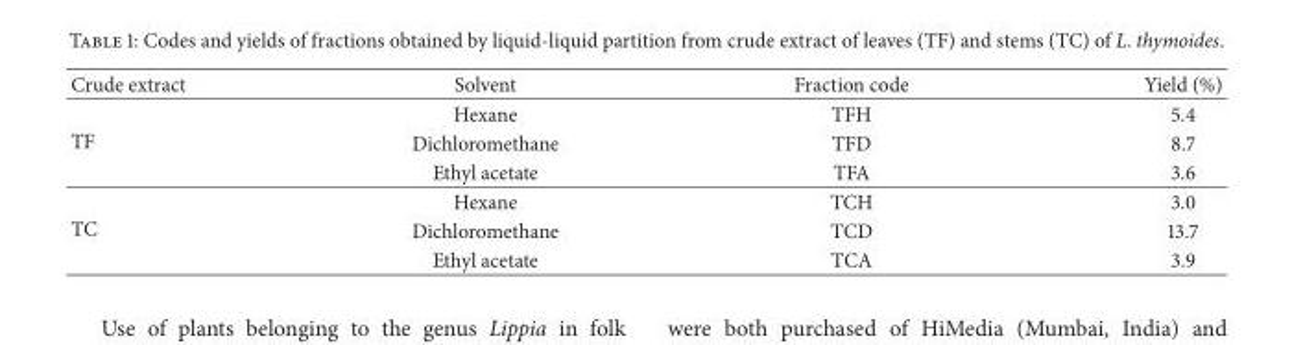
<table><thead><tr><td>Crude extract</td><td>Solvent</td><td>Fraction code</td><td>Yield (%)</td></tr></thead><tbody><tr><td rowspan="3">TF</td><td>Hexane</td><td>TFH</td><td>5.4</td></tr><tr><td>Dichloromethane</td><td>TFD</td><td>8.7</td></tr><tr><td>Ethyl acetate</td><td>TFA</td><td>3.6</td></tr><tr><td rowspan="3">TC</td><td>Hexane</td><td>TCH</td><td>3.0</td></tr><tr><td>Dichloromethane</td><td>TCD</td><td>13.7</td></tr><tr><td>Ethyl acetate</td><td>TCA</td><td>3.9</td></tr></tbody></table>